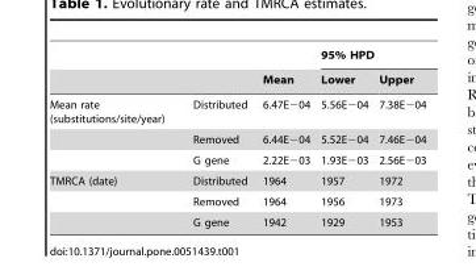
<table><thead><tr><td rowspan="2"></td><td rowspan="2"></td><td rowspan="2">Mean</td><td colspan="2">95% HPD</td></tr><tr><td>Lower</td><td>Upper</td></tr></thead><tbody><tr><td rowspan="3">Mean rate (substitutions/site/year)</td><td>Distributed</td><td>6.47E−04</td><td>5.56E−04</td><td>7.38E−04</td></tr><tr><td>Removed</td><td>6.44E−04</td><td>5.52E−04</td><td>7.46E−04</td></tr><tr><td>G gene</td><td>2.22E−03</td><td>1.93E−03</td><td>2.56E−03</td></tr><tr><td rowspan="3">TMRCA (date)</td><td>Distributed</td><td>1964</td><td>1957</td><td>1972</td></tr><tr><td>Removed</td><td>1964</td><td>1956</td><td>1973</td></tr><tr><td>G gene</td><td>1942</td><td>1929</td><td>1953</td></tr></tbody></table>